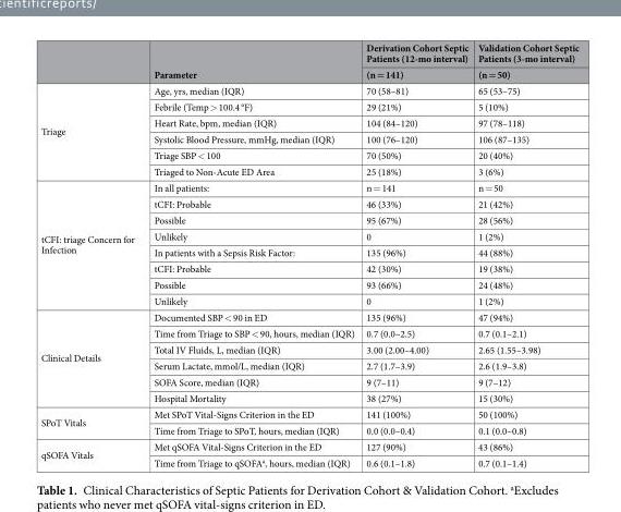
<table><thead><tr><td rowspan="2"></td><td rowspan="2">Parameter</td><td rowspan="2">Derivation Cohort Septic Patients (12-mo interval) (n = 141)</td><td rowspan="2">Validation Cohort Septic Patients (3-mo interval) (n = 50)</td></tr><tr></tr></thead><tbody><tr><td rowspan="6">Triage</td><td>Age, yrs, median (IQR)</td><td>70 (58–81)</td><td>65 (53–75)</td></tr><tr><td>Febrile (Temp &gt; 100.4 °F)</td><td>29 (21%)</td><td>5 (10%)</td></tr><tr><td>Heart Rate, bpm, median (IQR)</td><td>104 (84–120)</td><td>97 (78–118)</td></tr><tr><td>Systolic Blood Pressure, mmHg, median (IQR)</td><td>100 (76–120)</td><td>106 (87–135)</td></tr><tr><td>Triage SBP &lt; 100</td><td>70 (50%)</td><td>20 (40%)</td></tr><tr><td>Triaged to Non-Acute ED Area</td><td>25 (18%)</td><td>3 (6%)</td></tr><tr><td rowspan="8">tCFI: triage Concern for Infection</td><td>In all patients:</td><td>n = 141</td><td>n = 50</td></tr><tr><td>tCFI: Probable</td><td>46 (33%)</td><td>21 (42%)</td></tr><tr><td>Possible</td><td>95 (67%)</td><td>28 (56%)</td></tr><tr><td>Unlikely</td><td>0</td><td>1 (2%)</td></tr><tr><td>In patients with a Sepsis Risk Factor:</td><td>135 (96%)</td><td>44 (88%)</td></tr><tr><td>tCFI: Probable</td><td>42 (30%)</td><td>19 (38%)</td></tr><tr><td>Possible</td><td>93 (66%)</td><td>24 (48%)</td></tr><tr><td>Unlikely</td><td>0</td><td>1 (2%)</td></tr><tr><td rowspan="6">Clinical Details</td><td>Documented SBP &lt; 90 in ED</td><td>135 (96%)</td><td>47 (94%)</td></tr><tr><td>Time from Triage to SBP &lt; 90, hours, median (IQR)</td><td>0.7 (0.0–2.5)</td><td>0.7 (0.1–2.1)</td></tr><tr><td>Total IV Fluids, L, median (IQR)</td><td>3.00 (2.00–4.00)</td><td>2.65 (1.55–3.98)</td></tr><tr><td>Serum Lactate, mmol/L, median (IQR)</td><td>2.7 (1.7–3.9)</td><td>2.6 (1.9–3.8)</td></tr><tr><td>SOFA Score, median (IQR)</td><td>9 (7–11)</td><td>9 (7–12)</td></tr><tr><td>Hospital Mortality</td><td>38 (27%)</td><td>15 (30%)</td></tr><tr><td rowspan="2">SPoT Vitals</td><td>Met SPoT Vital-Signs Criterion in the ED</td><td>141 (100%)</td><td>50 (100%)</td></tr><tr><td>Time from Triage to SPoT, hours, median (IQR)</td><td>0.0 (0.0–0.4)</td><td>0.1 (0.0–0.8)</td></tr><tr><td rowspan="2">qSOFA Vitals</td><td>Met qSOFA Vital-Signs Criterion in the ED</td><td>127 (90%)</td><td>43 (86%)</td></tr><tr><td>Time from Triage to qSOFA<sup>a</sup>, hours, median (IQR)</td><td>0.6 (0.1–1.8)</td><td>0.7 (0.1–1.4)</td></tr></tbody></table>